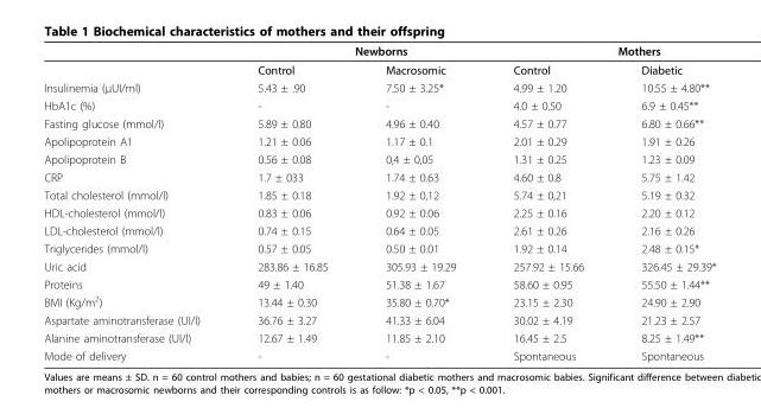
<table><thead><tr><td rowspan="2"></td><td colspan="2">Newborns</td><td colspan="2">Mothers</td></tr><tr><td>Control</td><td>Macrosomic</td><td>Control</td><td>Diabetic</td></tr></thead><tbody><tr><td>Insulinemia (μUI/ml)</td><td>5.43 ± .90</td><td>7.50 ± 3.25*</td><td>4.99 ± 1.20</td><td>10.55 ± 4.80**</td></tr><tr><td>HbA1c (%)</td><td>-</td><td>-</td><td>4.0 ± 0.50</td><td>6.9 ± 0.45**</td></tr><tr><td>Fasting glucose (mmol/l)</td><td>5.89 ± 0.80</td><td>4.96 ± 0.40</td><td>4.57 ± 0.77</td><td>6.80 ± 0.66**</td></tr><tr><td>Apolipoprotein A1</td><td>1.21 ± 0.06</td><td>1.17 ± 0.1</td><td>2.01 ± 0.29</td><td>1.91 ± 0.26</td></tr><tr><td>Apolipoprotein B</td><td>0.56 ± 0.08</td><td>0,4 ± 0,05</td><td>1.31 ± 0.25</td><td>1.23 ± 0.09</td></tr><tr><td>CRP</td><td>1.7 ± 033</td><td>1.74 ± 0.63</td><td>4.60 ± 0.8</td><td>5.75 ± 1.42</td></tr><tr><td>Total cholesterol (mmol/l)</td><td>1.85 ± 0.18</td><td>1.92 ± 0,12</td><td>5.74 ± 0,21</td><td>5.19 ± 0.32</td></tr><tr><td>HDL-cholesterol (mmol/l)</td><td>0.83 ± 0.06</td><td>0.92 ± 0.06</td><td>2.25 ± 0.16</td><td>2.20 ± 0.12</td></tr><tr><td>LDL-cholesterol (mmol/l)</td><td>0.74 ± 0.15</td><td>0.64 ± 0.05</td><td>2.61 ± 0.26</td><td>2.16 ± 0.26</td></tr><tr><td>Triglycerides (mmol/l)</td><td>0.57 ± 0.05</td><td>0.50 ± 0.01</td><td>1.92 ± 0.14</td><td>2.48 ± 0.15*</td></tr><tr><td>Uric acid</td><td>283.86 ± 16.85</td><td>305.93 ± 19.29</td><td>257.92 ± 15.66</td><td>326.45 ± 29.39*</td></tr><tr><td>Proteins</td><td>49 ± 1.40</td><td>51.38 ± 1.67</td><td>58.60 ± 0.95</td><td>55.50 ± 1.44**</td></tr><tr><td>BMI (Kg/m<sup>2</sup>)</td><td>13.44 ± 0.30</td><td>35.80 ± 0.70*</td><td>23.15 ± 2.30</td><td>24.90 ± 2.90</td></tr><tr><td>Aspartate aminotransferase (UI/l)</td><td>36.76 ± 3.27</td><td>41.33 ± 6.04</td><td>30.02 ± 4.19</td><td>21.23 ± 2.57</td></tr><tr><td>Alanine aminotransferase (UI/l)</td><td>12.67 ± 1.49</td><td>11.85 ± 2.10</td><td>16.45 ± 2.5</td><td>8.25 ± 1.49**</td></tr><tr><td>Mode of delivery</td><td>-</td><td>-</td><td>Spontaneous</td><td>Spontaneous</td></tr></tbody></table>